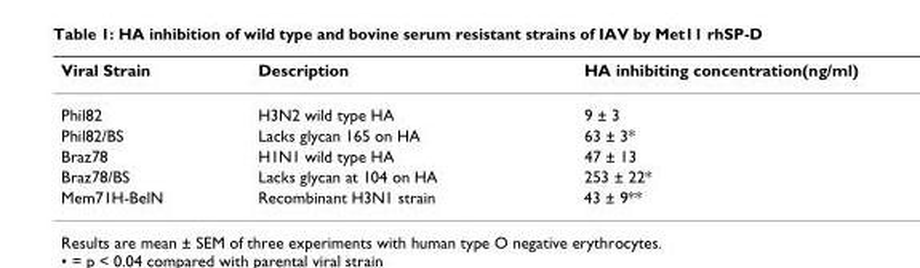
<table><thead><tr><td>Viral Strain</td><td>Description</td><td>HA inhibiting concentration(ng/ml)</td></tr></thead><tbody><tr><td>Phil82</td><td>H3N2 wild type HA</td><td>9 ± 3</td></tr><tr><td>Phil82/BS</td><td>Lacks glycan 165 on HA</td><td>63 ± 3*</td></tr><tr><td>Braz78</td><td>H1N1 wild type HA</td><td>47 ± 13</td></tr><tr><td>Braz78/BS</td><td>Lacks glycan at 104 on HA</td><td>253 ± 22*</td></tr><tr><td>Mem71H-BelN</td><td>Recombinant H3N1 strain</td><td>43 ± 9**</td></tr></tbody></table>